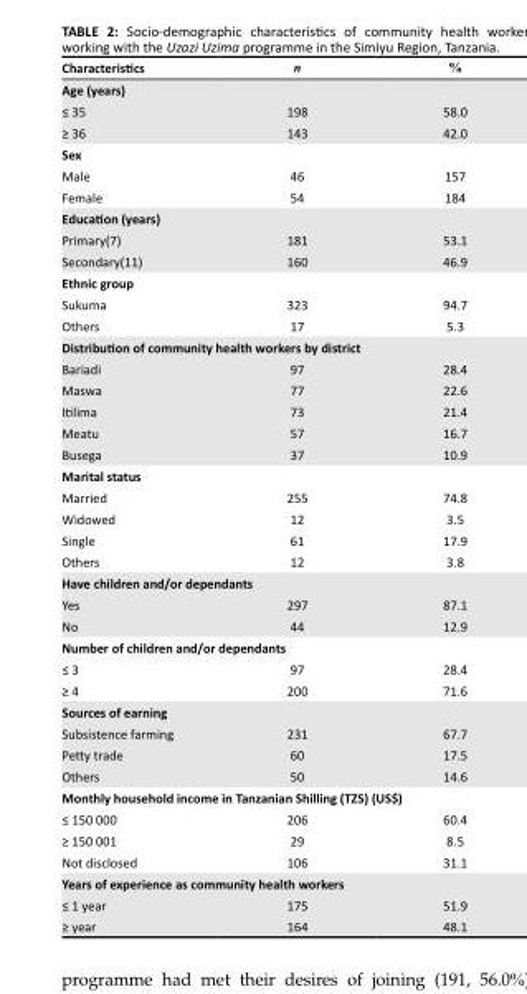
<table><thead><tr><td>Characteristics</td><td>n</td><td>%</td></tr></thead><tbody><tr><td colspan="3">Age (years)</td></tr><tr><td>≤ 35</td><td>198</td><td>58.0</td></tr><tr><td>≥ 36</td><td>143</td><td>42.0</td></tr><tr><td colspan="3">Sex</td></tr><tr><td>Male</td><td>46</td><td>157</td></tr><tr><td>Female</td><td>54</td><td>184</td></tr><tr><td colspan="3">Education (years)</td></tr><tr><td>Primary(7)</td><td>181</td><td>53.1</td></tr><tr><td>Secondary(11)</td><td>160</td><td>46.9</td></tr><tr><td colspan="3">Ethnic group</td></tr><tr><td>Sukuma</td><td>323</td><td>94.7</td></tr><tr><td>Others</td><td>17</td><td>5.3</td></tr><tr><td colspan="3">Distribution of community health workers by district</td></tr><tr><td>Bariadi</td><td>97</td><td>28.4</td></tr><tr><td>Maswa</td><td>77</td><td>22.6</td></tr><tr><td>Itilima</td><td>73</td><td>21.4</td></tr><tr><td>Meatu</td><td>57</td><td>16.7</td></tr><tr><td>Busega</td><td>37</td><td>10.9</td></tr><tr><td colspan="3">Marital status</td></tr><tr><td>Married</td><td>255</td><td>74.8</td></tr><tr><td>Widowed</td><td>12</td><td>3.5</td></tr><tr><td>Single</td><td>61</td><td>17.9</td></tr><tr><td>Others</td><td>12</td><td>3.8</td></tr><tr><td colspan="3">Have children and/or dependants</td></tr><tr><td>Yes</td><td>297</td><td>87.1</td></tr><tr><td>No</td><td>44</td><td>12.9</td></tr><tr><td colspan="3">Number of children and/or dependants</td></tr><tr><td>≤ 3</td><td>97</td><td>28.4</td></tr><tr><td>≥ 4</td><td>200</td><td>71.6</td></tr><tr><td colspan="3">Sources of earning</td></tr><tr><td>Subsistence farming</td><td>231</td><td>67.7</td></tr><tr><td>Petty trade</td><td>60</td><td>17.5</td></tr><tr><td>Others</td><td>50</td><td>14.6</td></tr><tr><td colspan="3">Monthly household income in Tanzanian Shilling (TZS) (US$)</td></tr><tr><td>≤ 150 000</td><td>206</td><td>60.4</td></tr><tr><td>≥ 150 001</td><td>29</td><td>8.5</td></tr><tr><td>Not disclosed</td><td>106</td><td>31.1</td></tr><tr><td colspan="3">Years of experience as community health workers</td></tr><tr><td>≤ 1 year</td><td>175</td><td>51.9</td></tr><tr><td>≥ year</td><td>164</td><td>48.1</td></tr></tbody></table>